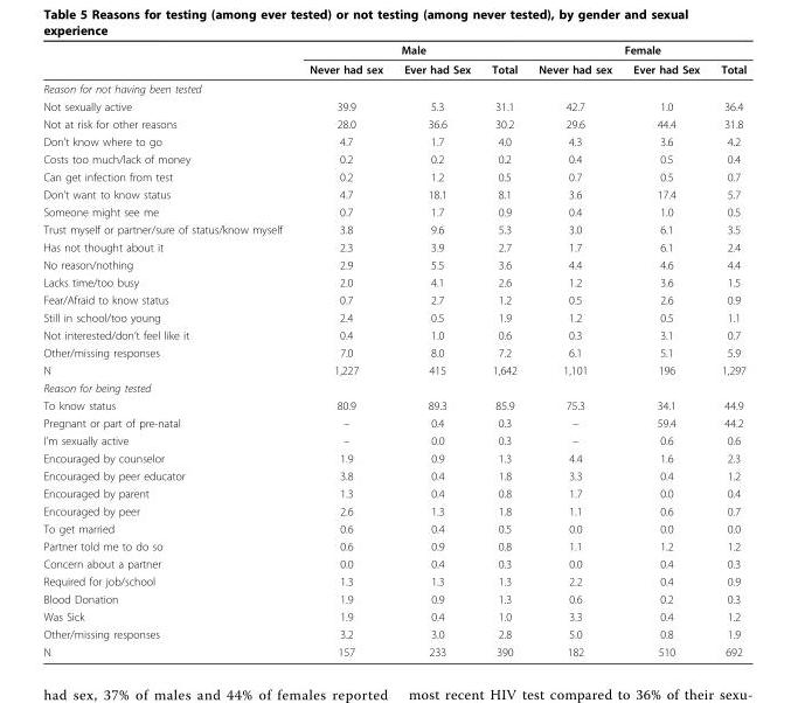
<table><thead><tr><td rowspan="2"></td><td colspan="3">Male</td><td colspan="3">Female</td></tr><tr><td>Never had sex</td><td>Ever had Sex</td><td>Total</td><td>Never had sex</td><td>Ever had Sex</td><td>Total</td></tr></thead><tbody><tr><td colspan="7">Reason for not having been tested</td></tr><tr><td>Not sexually active</td><td>39.9</td><td>5.3</td><td>31.1</td><td>42.7</td><td>1.0</td><td>36.4</td></tr><tr><td>Not at risk for other reasons</td><td>28.0</td><td>36.6</td><td>30.2</td><td>29.6</td><td>44.4</td><td>31.8</td></tr><tr><td>Don’t know where to go</td><td>4.7</td><td>1.7</td><td>4.0</td><td>4.3</td><td>3.6</td><td>4.2</td></tr><tr><td>Costs too much/lack of money</td><td>0.2</td><td>0.2</td><td>0.2</td><td>0.4</td><td>0.5</td><td>0.4</td></tr><tr><td>Can get infection from test</td><td>0.2</td><td>1.2</td><td>0.5</td><td>0.7</td><td>0.5</td><td>0.7</td></tr><tr><td>Don’t want to know status</td><td>4.7</td><td>18.1</td><td>8.1</td><td>3.6</td><td>17.4</td><td>5.7</td></tr><tr><td>Someone might see me</td><td>0.7</td><td>1.7</td><td>0.9</td><td>0.4</td><td>1.0</td><td>0.5</td></tr><tr><td>Trust myself or partner/sure of status/know myself</td><td>3.8</td><td>9.6</td><td>5.3</td><td>3.0</td><td>6.1</td><td>3.5</td></tr><tr><td>Has not thought about it</td><td>2.3</td><td>3.9</td><td>2.7</td><td>1.7</td><td>6.1</td><td>2.4</td></tr><tr><td>No reason/nothing</td><td>2.9</td><td>5.5</td><td>3.6</td><td>4.4</td><td>4.6</td><td>4.4</td></tr><tr><td>Lacks time/too busy</td><td>2.0</td><td>4.1</td><td>2.6</td><td>1.2</td><td>3.6</td><td>1.5</td></tr><tr><td>Fear/Afraid to know status</td><td>0.7</td><td>2.7</td><td>1.2</td><td>0.5</td><td>2.6</td><td>0.9</td></tr><tr><td>Still in school/too young</td><td>2.4</td><td>0.5</td><td>1.9</td><td>1.2</td><td>0.5</td><td>1.1</td></tr><tr><td>Not interested/don’t feel like it</td><td>0.4</td><td>1.0</td><td>0.6</td><td>0.3</td><td>3.1</td><td>0.7</td></tr><tr><td>Other/missing responses</td><td>7.0</td><td>8.0</td><td>7.2</td><td>6.1</td><td>5.1</td><td>5.9</td></tr><tr><td>N</td><td>1,227</td><td>415</td><td>1,642</td><td>1,101</td><td>196</td><td>1,297</td></tr><tr><td colspan="7">Reason for being tested</td></tr><tr><td>To know status</td><td>80.9</td><td>89.3</td><td>85.9</td><td>75.3</td><td>34.1</td><td>44.9</td></tr><tr><td>Pregnant or part of pre-natal</td><td>–</td><td>0.4</td><td>0.3</td><td>–</td><td>59.4</td><td>44.2</td></tr><tr><td>I’m sexually active</td><td>–</td><td>0.0</td><td>0.3</td><td>–</td><td>0.6</td><td>0.6</td></tr><tr><td>Encouraged by counselor</td><td>1.9</td><td>0.9</td><td>1.3</td><td>4.4</td><td>1.6</td><td>2.3</td></tr><tr><td>Encouraged by peer educator</td><td>3.8</td><td>0.4</td><td>1.8</td><td>3.3</td><td>0.4</td><td>1.2</td></tr><tr><td>Encouraged by parent</td><td>1.3</td><td>0.4</td><td>0.8</td><td>1.7</td><td>0.0</td><td>0.4</td></tr><tr><td>Encouraged by peer</td><td>2.6</td><td>1.3</td><td>1.8</td><td>1.1</td><td>0.6</td><td>0.7</td></tr><tr><td>To get married</td><td>0.6</td><td>0.4</td><td>0.5</td><td>0.0</td><td>0.0</td><td>0.0</td></tr><tr><td>Partner told me to do so</td><td>0.6</td><td>0.9</td><td>0.8</td><td>1.1</td><td>1.2</td><td>1.2</td></tr><tr><td>Concern about a partner</td><td>0.0</td><td>0.4</td><td>0.3</td><td>0.0</td><td>0.4</td><td>0.3</td></tr><tr><td>Required for job/school</td><td>1.3</td><td>1.3</td><td>1.3</td><td>2.2</td><td>0.4</td><td>0.9</td></tr><tr><td>Blood Donation</td><td>1.9</td><td>0.9</td><td>1.3</td><td>0.6</td><td>0.2</td><td>0.3</td></tr><tr><td>Was Sick</td><td>1.9</td><td>0.4</td><td>1.0</td><td>3.3</td><td>0.4</td><td>1.2</td></tr><tr><td>Other/missing responses</td><td>3.2</td><td>3.0</td><td>2.8</td><td>5.0</td><td>0.8</td><td>1.9</td></tr><tr><td>N</td><td>157</td><td>233</td><td>390</td><td>182</td><td>510</td><td>692</td></tr></tbody></table>